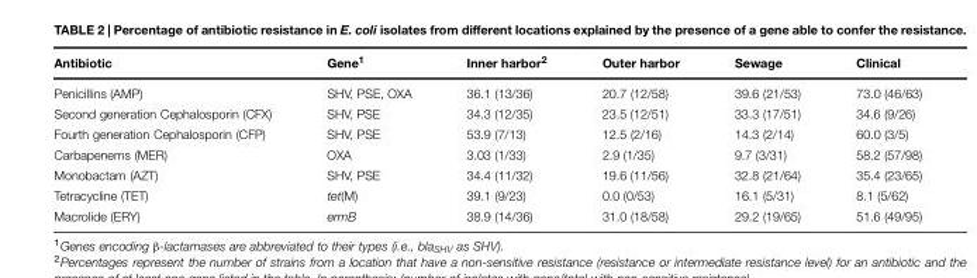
<table><thead><tr><td>Antibiotic</td><td>Gene<sup>1</sup></td><td>Inner harbor<sup>2</sup></td><td>Outer harbor</td><td>Sewage</td><td>Clinical</td></tr></thead><tbody><tr><td>Penicillins (AMP)</td><td>SHV, PSE, OXA</td><td>36.1 (13/36)</td><td>20.7 (12/58)</td><td>39.6 (21/53)</td><td>73.0 (46/63)</td></tr><tr><td>Second generation Cephalosporin (CFX)</td><td>SHV, PSE</td><td>34.3 (12/35)</td><td>23.5 (12/51)</td><td>33.3 (17/51)</td><td>34.6 (9/26)</td></tr><tr><td>Fourth generation Cephalosporin (CFP)</td><td>SHV, PSE</td><td>53.9 (7/13)</td><td>12.5 (2/16)</td><td>14.3 (2/14)</td><td>60.0 (3/5)</td></tr><tr><td>Carbapenems (MER)</td><td>OXA</td><td>3.03 (1/33)</td><td>2.9 (1/35)</td><td>9.7 (3/31)</td><td>58.2 (57/98)</td></tr><tr><td>Monobactam (AZT)</td><td>SHV, PSE</td><td>34.4 (11/32)</td><td>19.6 (11/56)</td><td>32.8 (21/64)</td><td>35.4 (23/65)</td></tr><tr><td>Tetracycline (TET)</td><td>tet(M)</td><td>39.1 (9/23)</td><td>0.0 (0/53)</td><td>16.1 (5/31)</td><td>8.1 (5/62)</td></tr><tr><td>Macrolide (ERY)</td><td>ermB</td><td>38.9 (14/36)</td><td>31.0 (18/58)</td><td>29.2 (19/65)</td><td>51.6 (49/95)</td></tr></tbody></table>